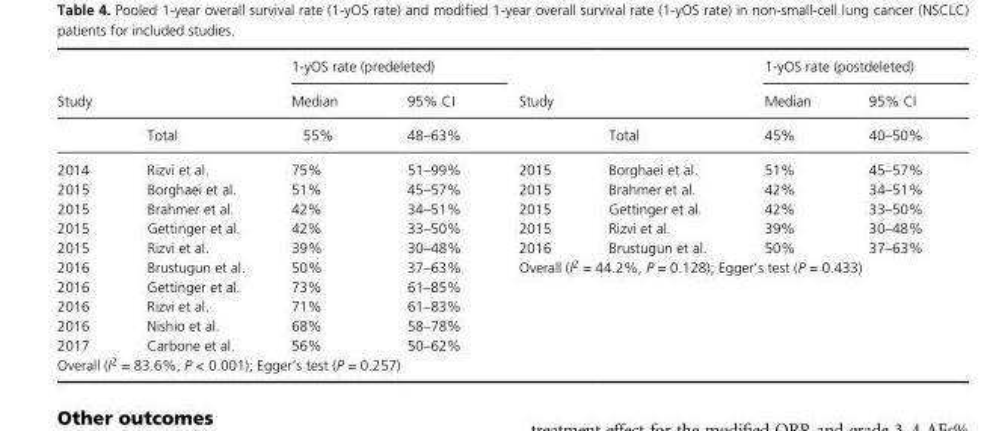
<table><thead><tr><td rowspan="2" colspan="2">Study</td><td colspan="2">1- yOS rate (predeleted)</td><td rowspan="2" colspan="2">Study</td><td colspan="2">1- yOS rate (postdeleted)</td></tr><tr><td rowspan="2">Median 55%</td><td rowspan="2">95% CI 48–63%</td><td rowspan="2">Median 45%</td><td rowspan="2">95% CI 40–50%</td></tr><tr><td></td><td>Total</td><td></td><td>Total</td></tr></thead><tbody><tr><td>2014</td><td>Rizvi et al.</td><td>75%</td><td>51–99%</td><td>2015</td><td>Borghaei et al.</td><td>51%</td><td>45–57%</td></tr><tr><td>2015</td><td>Borghaei et al.</td><td>51%</td><td>45–57%</td><td>2015</td><td>Brahmer et al.</td><td>42%</td><td>34–51%</td></tr><tr><td>2015</td><td>Brahmer et al.</td><td>42%</td><td>34–51%</td><td>2015</td><td>Gettinger et al.</td><td>42%</td><td>33–50%</td></tr><tr><td>2015</td><td>Gettinger et al.</td><td>42%</td><td>33–50%</td><td>2015</td><td>Rizvi et al.</td><td>39%</td><td>30–48%</td></tr><tr><td>2015</td><td>Rizvi et al.</td><td>39%</td><td>30–48%</td><td>2016</td><td>Brustugun et al.</td><td>50%</td><td>37–63%</td></tr><tr><td>2016</td><td>Brustugun et al.</td><td>50%</td><td>37–63%</td><td colspan="4">Overall (I<sup>2</sup> = 44.2%, P = 0.128); Egger’s test (P = 0.433)</td></tr><tr><td>2016</td><td>Gettinger et al.</td><td>73%</td><td>61–85%</td><td></td><td></td><td></td><td></td></tr><tr><td>2016</td><td>Rizvi et al.</td><td>71%</td><td>61–83%</td><td></td><td></td><td></td><td></td></tr><tr><td>2016</td><td>Nishio et al.</td><td>68%</td><td>58–78%</td><td></td><td></td><td></td><td></td></tr><tr><td>2017</td><td>Carbone et al.</td><td>56%</td><td>50–62%</td><td></td><td></td><td></td><td></td></tr><tr><td colspan="4">Overall (I<sup>2</sup> = 83.6%, P &lt; 0.001); Egger’s test (P = 0.257)</td><td></td><td></td><td></td><td></td></tr></tbody></table>